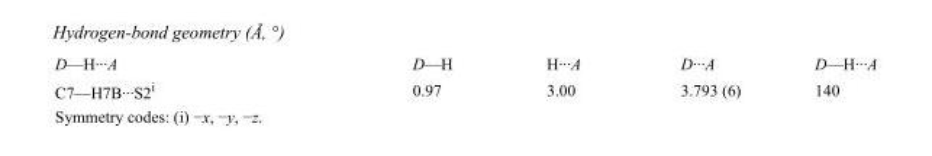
<table><tbody><tr><td>D—H···A</td><td>D—H</td><td>H···A</td><td>D···A</td><td>D—H···A</td></tr><tr><td>C7—H7B···S2<sup>i</sup></td><td>0.97</td><td>3.00</td><td>3.793 (6)</td><td>140</td></tr></tbody></table>